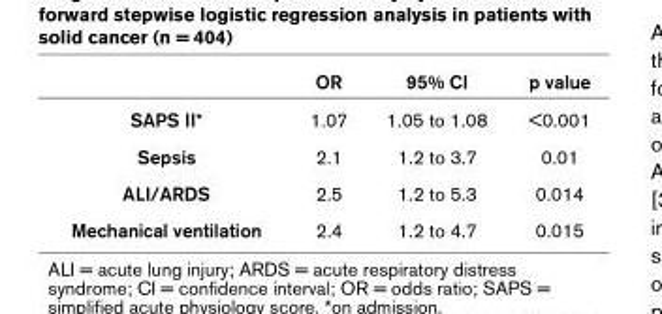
<table><thead><tr><td></td><td>OR</td><td>95% CI</td><td>p value</td></tr></thead><tbody><tr><td>SAPS II*</td><td>1.07</td><td>1.05 to 1.08</td><td>&lt;0.001</td></tr><tr><td>Sepsis</td><td>2.1</td><td>1.2 to 3.7</td><td>0.01</td></tr><tr><td>ALI/ARDS</td><td>2.5</td><td>1.2 to 5.3</td><td>0.014</td></tr><tr><td>Mechanical ventilation</td><td>2.4</td><td>1.2 to 4.7</td><td>0.015</td></tr></tbody></table>